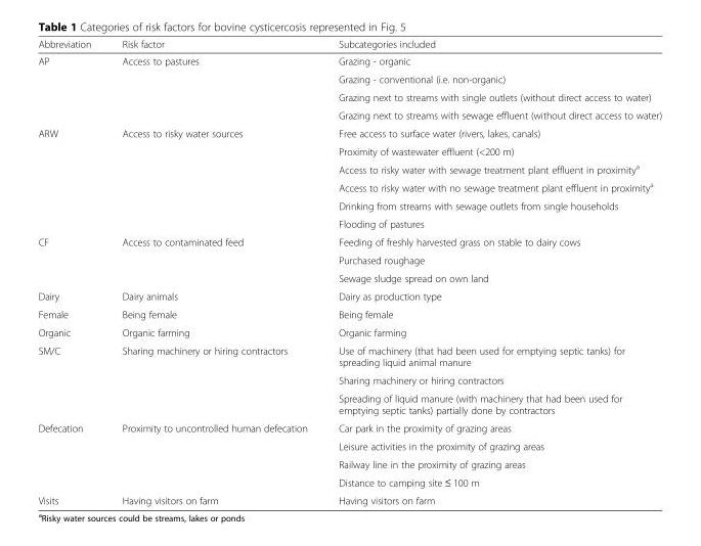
<table><thead><tr><td>Abbreviation</td><td>Risk factor</td><td>Subcategories included</td></tr></thead><tbody><tr><td rowspan="4">AP</td><td rowspan="4">Access to pastures</td><td>Grazing - organic</td></tr><tr><td>Grazing - conventional (i.e. non-organic)</td></tr><tr><td>Grazing next to streams with single outlets (without direct access to water)</td></tr><tr><td>Grazing next to streams with sewage effluent (without direct access to water)</td></tr><tr><td rowspan="6">ARW</td><td rowspan="6">Access to risky water sources</td><td>Free access to surface water (rivers, lakes, canals)</td></tr><tr><td>Proximity of wastewater effluent (&lt;200 m)</td></tr><tr><td>Access to risky water with sewage treatment plant effluent in proximity<sup>a</sup></td></tr><tr><td>Access to risky water with no sewage treatment plant effluent in proximity<sup>a</sup></td></tr><tr><td>Drinking from streams with sewage outlets from single households</td></tr><tr><td>Flooding of pastures</td></tr><tr><td rowspan="3">CF</td><td rowspan="3">Access to contaminated feed</td><td>Feeding of freshly harvested grass on stable to dairy cows</td></tr><tr><td>Purchased roughage</td></tr><tr><td>Sewage sludge spread on own land</td></tr><tr><td>Dairy</td><td>Dairy animals</td><td>Dairy as production type</td></tr><tr><td>Female</td><td>Being female</td><td>Being female</td></tr><tr><td>Organic</td><td>Organic farming</td><td>Organic farming</td></tr><tr><td rowspan="3">SM/C</td><td rowspan="3">Sharing machinery or hiring contractors</td><td>Use of machinery (that had been used for emptying septic tanks) for spreading liquid animal manure</td></tr><tr><td>Sharing machinery or hiring contractors</td></tr><tr><td>Spreading of liquid manure (with machinery that had been used for emptying septic tanks) partially done by contractors</td></tr><tr><td rowspan="4">Defecation</td><td rowspan="4">Proximity to uncontrolled human defecation</td><td>Car park in the proximity of grazing areas</td></tr><tr><td>Leisure activities in the proximity of grazing areas</td></tr><tr><td>Railway line in the proximity of grazing areas</td></tr><tr><td>Distance to camping site ≤ 100 m</td></tr><tr><td>Visits</td><td>Having visitors on farm</td><td>Having visitors on farm</td></tr></tbody></table>